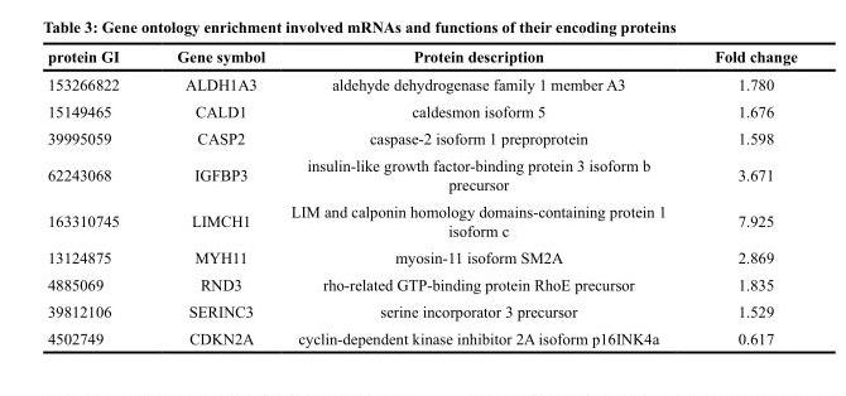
<table><thead><tr><td>protein GI</td><td>Gene symbol</td><td>Protein description</td><td>Fold change</td></tr></thead><tbody><tr><td>153266822</td><td>ALDH1A3</td><td>aldehyde dehydrogenase family 1 member A3</td><td>1.780</td></tr><tr><td>15149465</td><td>CALD1</td><td>caldesmon isoform 5</td><td>1.676</td></tr><tr><td>39995059</td><td>CASP2</td><td>caspase-2 isoform 1 preproprotein</td><td>1.598</td></tr><tr><td>62243068</td><td>IGFBP3</td><td>insulin-like growth factor-binding protein 3 isoform b precursor</td><td>3.671</td></tr><tr><td>163310745</td><td>LIMCH1</td><td>LIM and calponin homology domains-containing protein 1 isoform c</td><td>7.925</td></tr><tr><td>13124875</td><td>MYH11</td><td>myosin-11 isoform SM2A</td><td>2.869</td></tr><tr><td>4885069</td><td>RND3</td><td>rho-related GTP-binding protein RhoE precursor</td><td>1.835</td></tr><tr><td>39812106</td><td>SERINC3</td><td>serine incorporator 3 precursor</td><td>1.529</td></tr><tr><td>4502749</td><td>CDKN2A</td><td>cyclin-dependent kinase inhibitor 2A isoform p16INK4a</td><td>0.617</td></tr></tbody></table>